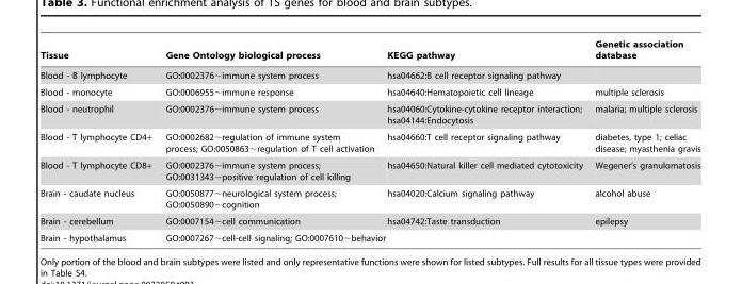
<table><thead><tr><td>Tissue</td><td>Gene Ontology biological process</td><td>KEGG pathway</td><td>Genetic association database</td></tr></thead><tbody><tr><td>Blood - B lymphocyte</td><td>GO:0002376∼immune system process</td><td>hsa04662:B cell receptor signaling pathway</td><td></td></tr><tr><td>Blood - monocyte</td><td>GO:0006955∼immune response</td><td>hsa04640:Hematopoietic cell lineage</td><td>multiple sclerosis</td></tr><tr><td>Blood - neutrophil</td><td>GO:0002376∼immune system process</td><td>hsa04060:Cytokine-cytokine receptor interaction; hsa04144:Endocytosis</td><td>malaria; multiple sclerosis</td></tr><tr><td>Blood - T lymphocyte CD4+</td><td>GO:0002682∼regulation of immune system process; GO:0050863∼regulation of T cell activation</td><td>hsa04660:T cell receptor signaling pathway</td><td>diabetes, type 1; celiac disease; myasthenia gravis</td></tr><tr><td>Blood - T lymphocyte CD8+</td><td>GO:0002376∼immune system process; GO:0031343∼positive regulation of cell killing</td><td>hsa04650:Natural killer cell mediated cytotoxicity</td><td>Wegener’s granulomatosis</td></tr><tr><td>Brain - caudate nucleus</td><td>GO:0050877∼neurological system process; GO:0050890∼cognition</td><td>hsa04020:Calcium signaling pathway</td><td>alcohol abuse</td></tr><tr><td>Brain - cerebellum</td><td>GO:0007154∼cell communication</td><td>hsa04742:Taste transduction</td><td>epilepsy</td></tr><tr><td>Brain - hypothalamus</td><td>GO:0007267∼cell-cell signaling; GO:0007610∼behavior</td><td></td><td></td></tr></tbody></table>